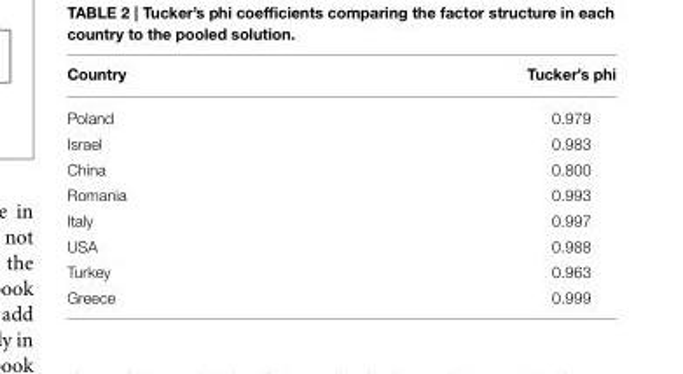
<table><thead><tr><td>Country</td><td>Tucker’s phi</td></tr></thead><tbody><tr><td>Poland</td><td>0.979</td></tr><tr><td>Israel</td><td>0.983</td></tr><tr><td>China</td><td>0.800</td></tr><tr><td>Romania</td><td>0.993</td></tr><tr><td>Italy</td><td>0.997</td></tr><tr><td>USA</td><td>0.988</td></tr><tr><td>Turkey</td><td>0.963</td></tr><tr><td>Greece</td><td>0.999</td></tr></tbody></table>